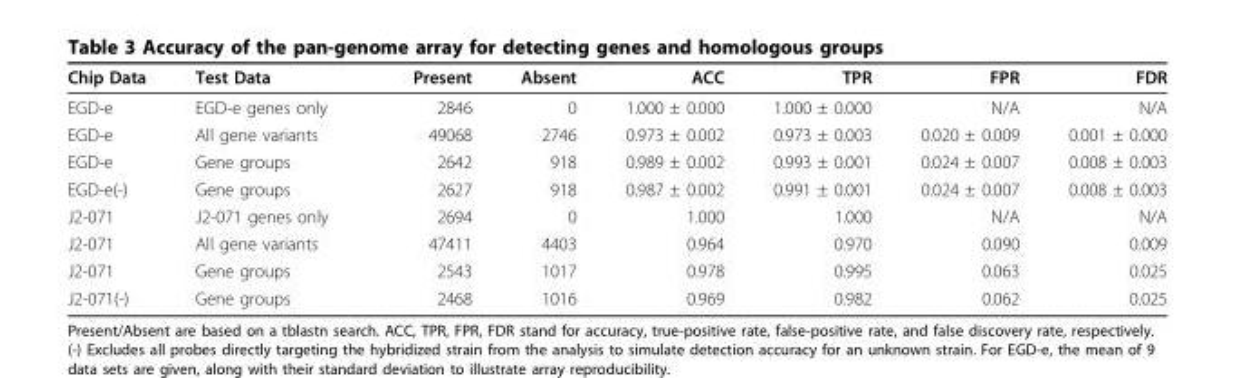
<table><thead><tr><td>Chip Data</td><td>Test Data</td><td>Present</td><td>Absent</td><td>ACC</td><td>TPR</td><td>FPR</td><td>FDR</td></tr></thead><tbody><tr><td>EGD-e</td><td>EGD-e genes only</td><td>2846</td><td>0</td><td>1.000 ± 0.000</td><td>1.000 ± 0.000</td><td>N/A</td><td>N/A</td></tr><tr><td>EGD-e</td><td>All gene variants</td><td>49068</td><td>2746</td><td>0.973 ± 0.002</td><td>0.973 ± 0.003</td><td>0.020 ± 0.009</td><td>0.001 ± 0.000</td></tr><tr><td>EGD-e</td><td>Gene groups</td><td>2642</td><td>918</td><td>0.989 ± 0.002</td><td>0.993 ± 0.001</td><td>0.024 ± 0.007</td><td>0.008 ± 0.003</td></tr><tr><td>EGD-e(-)</td><td>Gene groups</td><td>2627</td><td>918</td><td>0.987 ± 0.002</td><td>0.991 ± 0.001</td><td>0.024 ± 0.007</td><td>0.008 ± 0.003</td></tr><tr><td>J2-071</td><td>J2-071 genes only</td><td>2694</td><td>0</td><td>1.000</td><td>1.000</td><td>N/A</td><td>N/A</td></tr><tr><td>J2-071</td><td>All gene variants</td><td>47411</td><td>4403</td><td>0.964</td><td>0.970</td><td>0.090</td><td>0.009</td></tr><tr><td>J2-071</td><td>Gene groups</td><td>2543</td><td>1017</td><td>0.978</td><td>0.995</td><td>0.063</td><td>0.025</td></tr><tr><td>J2-071(-)</td><td>Gene groups</td><td>2468</td><td>1016</td><td>0.969</td><td>0.982</td><td>0.062</td><td>0.025</td></tr></tbody></table>